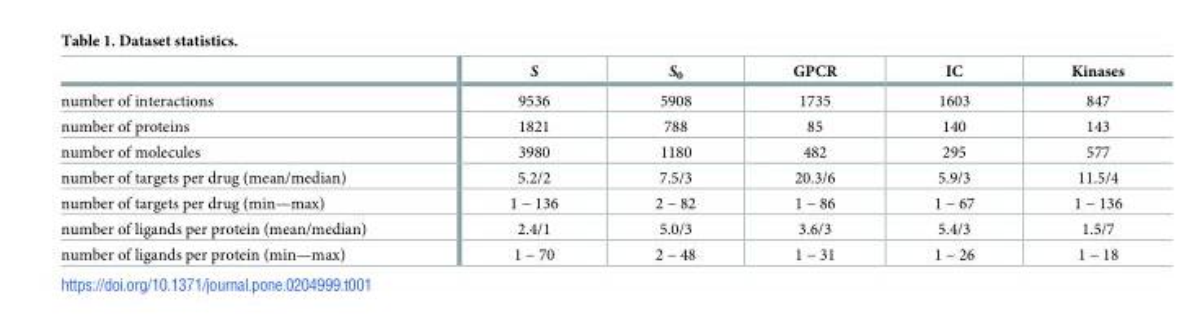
<table><thead><tr><td></td><td>S</td><td>S<sub>0</sub></td><td>GPCR</td><td>IC</td><td>Kinases</td></tr></thead><tbody><tr><td>number of interactions</td><td>9536</td><td>5908</td><td>1735</td><td>1603</td><td>847</td></tr><tr><td>number of proteins</td><td>1821</td><td>788</td><td>85</td><td>140</td><td>143</td></tr><tr><td>number of molecules</td><td>3980</td><td>1180</td><td>482</td><td>295</td><td>577</td></tr><tr><td>number of targets per drug (mean/median)</td><td>5.2/2</td><td>7.5/3</td><td>20.3/6</td><td>5.9/3</td><td>11.5/4</td></tr><tr><td>number of targets per drug (min—max)</td><td>1 − 136</td><td>2 − 82</td><td>1 − 86</td><td>1 − 67</td><td>1 − 136</td></tr><tr><td>number of ligands per protein (mean/median)</td><td>2.4/1</td><td>5.0/3</td><td>3.6/3</td><td>5.4/3</td><td>1.5/7</td></tr><tr><td>number of ligands per protein (min—max)</td><td>1 − 70</td><td>2 − 48</td><td>1 − 31</td><td>1 − 26</td><td>1 − 18</td></tr></tbody></table>